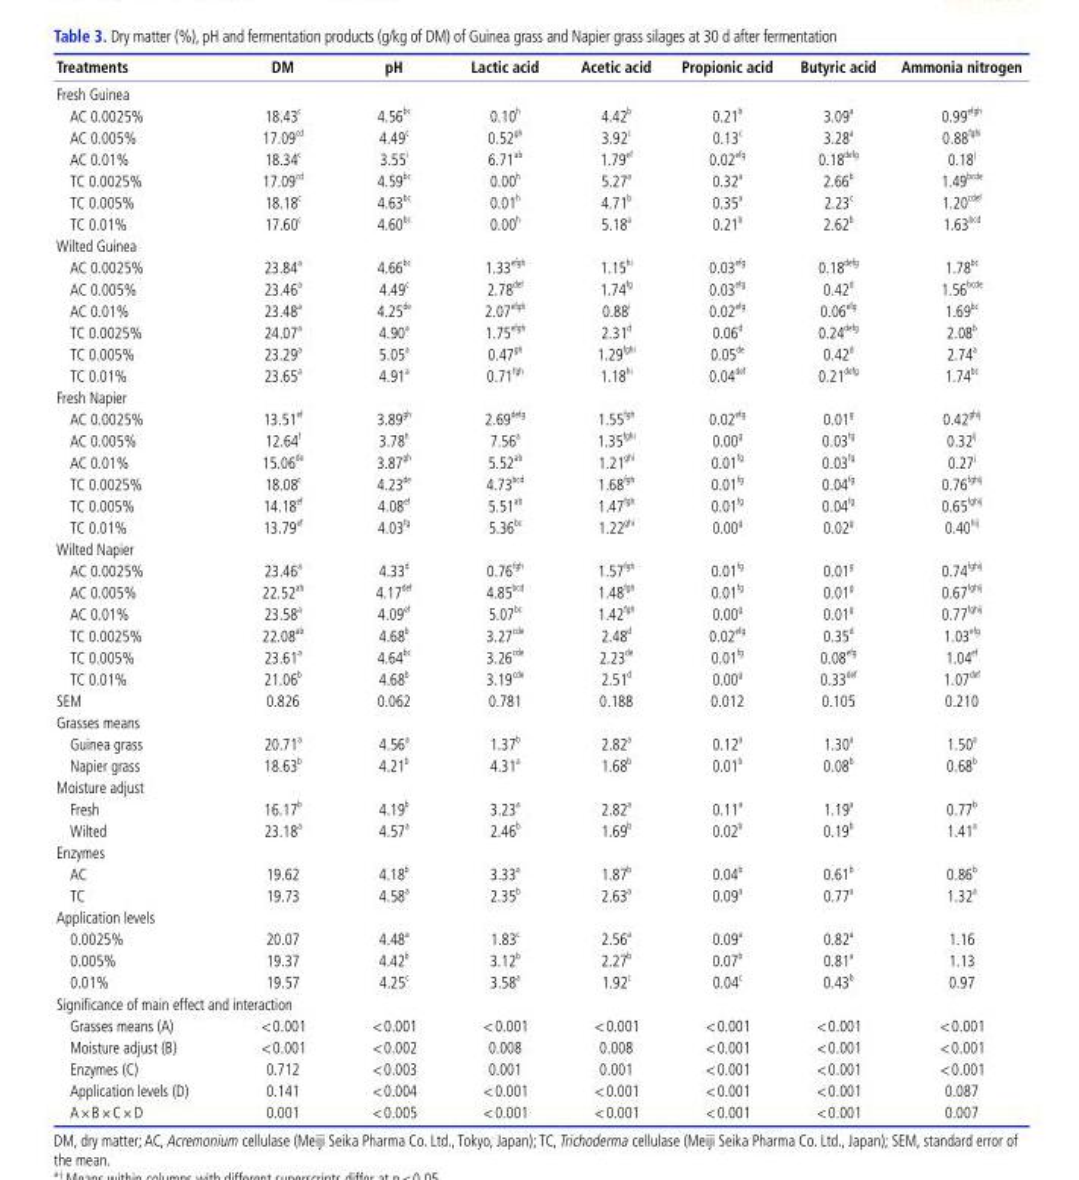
<table><thead><tr><td>Treatments</td><td>DM</td><td>pH</td><td>Lactic acid</td><td>Acetic acid</td><td>Propionic acid</td><td>Butyric acid</td><td>Ammonia nitrogen</td></tr></thead><tbody><tr><td colspan="8">Fresh Guinea</td></tr><tr><td>AC 0.0025%</td><td>18.43 <sup>c</sup></td><td>4.56 <sup>bc</sup></td><td>0.10 <sup>h</sup></td><td>4.42 <sup>b</sup></td><td>0.21 <sup>b</sup></td><td>3.09 <sup>a</sup></td><td>0.99 efgh</td></tr><tr><td>AC 0.005%</td><td>17.09 <sup>cd</sup></td><td>4.49 <sup>c</sup></td><td>0.52 <sup>gh</sup></td><td>3.92 <sup>c</sup></td><td>0.13 <sup>c</sup></td><td>3.28 <sup>a</sup></td><td>0.88 fghi</td></tr><tr><td>AC 0.01%</td><td>18.34 <sup>c</sup></td><td>3.55 <sup>i</sup></td><td>6.71 <sup>ab</sup></td><td>1.79 <sup>ef</sup></td><td>0.02 efg</td><td>0.18 defg</td><td>0.18 <sup>j</sup></td></tr><tr><td>TC 0.0025%</td><td>17.09 <sup>cd</sup></td><td>4.59 <sup>bc</sup></td><td>0.00 <sup>h</sup></td><td>5.27 <sup>a</sup></td><td>0.32 <sup>a</sup></td><td>2.66 <sup>b</sup></td><td>1.49 bcde</td></tr><tr><td>TC 0.005%</td><td>18.18 <sup>c</sup></td><td>4.63 <sup>bc</sup></td><td>0.01 <sup>h</sup></td><td>4.71 <sup>b</sup></td><td>0.35 <sup>a</sup></td><td>2.23 <sup>c</sup></td><td>1.20 cdef</td></tr><tr><td>TC 0.01%</td><td>17.60 <sup>c</sup></td><td>4.60 <sup>bc</sup></td><td>0.00 <sup>h</sup></td><td>5.18 <sup>a</sup></td><td>0.21 <sup>b</sup></td><td>2.62 <sup>b</sup></td><td>1.63 bcd</td></tr><tr><td colspan="8">Wilted Guinea</td></tr><tr><td>AC 0.0025%</td><td>23.84 <sup>a</sup></td><td>4.66 <sup>bc</sup></td><td>1.33 efgh</td><td>1.15 <sup>hi</sup></td><td>0.03 efg</td><td>0.18 defg</td><td>1.78 <sup>bc</sup></td></tr><tr><td>AC 0.005%</td><td>23.46 <sup>a</sup></td><td>4.49 <sup>c</sup></td><td>2.78 def</td><td>1.74 <sup>fg</sup></td><td>0.03 efg</td><td>0.42 <sup>d</sup></td><td>1.56 bcde</td></tr><tr><td>AC 0.01%</td><td>23.48 <sup>a</sup></td><td>4.25 <sup>de</sup></td><td>2.07 efgh</td><td>0.88 <sup>i</sup></td><td>0.02 efg</td><td>0.06 efg</td><td>1.69 <sup>bc</sup></td></tr><tr><td>TC 0.0025%</td><td>24.07 <sup>a</sup></td><td>4.90 <sup>a</sup></td><td>1.75 efgh</td><td>2.31 <sup>d</sup></td><td>0.06 <sup>d</sup></td><td>0.24 defg</td><td>2.08 <sup>b</sup></td></tr><tr><td>TC 0.005%</td><td>23.29 <sup>a</sup></td><td>5.05 <sup>a</sup></td><td>0.47 <sup>gh</sup></td><td>1.29 fghi</td><td>0.05 <sup>de</sup></td><td>0.42 <sup>d</sup></td><td>2.74 <sup>a</sup></td></tr><tr><td>TC 0.01%</td><td>23.65 <sup>a</sup></td><td>4.91 <sup>a</sup></td><td>0.71 fgh</td><td>1.18 <sup>hi</sup></td><td>0.04 def</td><td>0.21 defg</td><td>1.74 <sup>bc</sup></td></tr><tr><td colspan="8">Fresh Napier</td></tr><tr><td>AC 0.0025%</td><td>13.51 <sup>ef</sup></td><td>3.89 <sup>gh</sup></td><td>2.69 defg</td><td>1.55 fgh</td><td>0.02 efg</td><td>0.01 <sup>g</sup></td><td>0.42 ghij</td></tr><tr><td>AC 0.005%</td><td>12.64 <sup>f</sup></td><td>3.78 <sup>h</sup></td><td>7.56 <sup>a</sup></td><td>1.35 fghi</td><td>0.00 <sup>g</sup></td><td>0.03 <sup>fg</sup></td><td>0.32 <sup>ij</sup></td></tr><tr><td>AC 0.01%</td><td>15.06 <sup>de</sup></td><td>3.87 <sup>gh</sup></td><td>5.52 <sup>ab</sup></td><td>1.21 ghi</td><td>0.01 <sup>fg</sup></td><td>0.03 <sup>fg</sup></td><td>0.27 <sup>j</sup></td></tr><tr><td>TC 0.0025%</td><td>18.08 <sup>c</sup></td><td>4.23 <sup>de</sup></td><td>4.73 bcd</td><td>1.68 fgh</td><td>0.01 <sup>fg</sup></td><td>0.04 <sup>fg</sup></td><td>0.76 fghij</td></tr><tr><td>TC 0.005%</td><td>14.18 <sup>ef</sup></td><td>4.08 <sup>ef</sup></td><td>5.51 <sup>ab</sup></td><td>1.47 fgh</td><td>0.01 <sup>fg</sup></td><td>0.04 <sup>fg</sup></td><td>0.65 fghij</td></tr><tr><td>TC 0.01%</td><td>13.79 <sup>ef</sup></td><td>4.03 <sup>fg</sup></td><td>5.36 <sup>bc</sup></td><td>1.22 ghi</td><td>0.00 <sup>g</sup></td><td>0.02 <sup>g</sup></td><td>0.40 hij</td></tr><tr><td colspan="8">Wilted Napier</td></tr><tr><td>AC 0.0025%</td><td>23.46 <sup>a</sup></td><td>4.33 <sup>d</sup></td><td>0.76 fgh</td><td>1.57 fgh</td><td>0.01 <sup>fg</sup></td><td>0.01 <sup>g</sup></td><td>0.74 fghij</td></tr><tr><td>AC 0.005%</td><td>22.52 <sup>ab</sup></td><td>4.17 def</td><td>4.85 bcd</td><td>1.48 fgh</td><td>0.01 <sup>fg</sup></td><td>0.01 <sup>g</sup></td><td>0.67 fghij</td></tr><tr><td>AC 0.01%</td><td>23.58 <sup>a</sup></td><td>4.09 <sup>ef</sup></td><td>5.07 <sup>bc</sup></td><td>1.42 fgh</td><td>0.00 <sup>g</sup></td><td>0.01 <sup>g</sup></td><td>0.77 fghij</td></tr><tr><td>TC 0.0025%</td><td>22.08 <sup>ab</sup></td><td>4.68 <sup>b</sup></td><td>3.27 cde</td><td>2.48 <sup>d</sup></td><td>0.02 efg</td><td>0.35 <sup>d</sup></td><td>1.03 efg</td></tr><tr><td>TC 0.005%</td><td>23.61 <sup>a</sup></td><td>4.64 <sup>bc</sup></td><td>3.26 cde</td><td>2.23 <sup>de</sup></td><td>0.01 <sup>fg</sup></td><td>0.08 efg</td><td>1.04 <sup>ef</sup></td></tr><tr><td>TC 0.01%</td><td>21.06 <sup>b</sup></td><td>4.68 <sup>b</sup></td><td>3.19 cde</td><td>2.51 <sup>d</sup></td><td>0.00 <sup>g</sup></td><td>0.33 def</td><td>1.07 def</td></tr><tr><td>SEM</td><td>0.826</td><td>0.062</td><td>0.781</td><td>0.188</td><td>0.012</td><td>0.105</td><td>0.210</td></tr><tr><td colspan="8">Grasses means</td></tr><tr><td>Guinea grass</td><td>20.71 <sup>a</sup></td><td>4.56 <sup>a</sup></td><td>1.37 <sup>b</sup></td><td>2.82 <sup>a</sup></td><td>0.12 <sup>a</sup></td><td>1.30 <sup>a</sup></td><td>1.50 <sup>a</sup></td></tr><tr><td>Napier grass</td><td>18.63 <sup>b</sup></td><td>4.21 <sup>b</sup></td><td>4.31 <sup>a</sup></td><td>1.68 <sup>b</sup></td><td>0.01 <sup>b</sup></td><td>0.08 <sup>b</sup></td><td>0.68 <sup>b</sup></td></tr><tr><td colspan="8">Moisture adjust</td></tr><tr><td>Fresh</td><td>16.17 <sup>b</sup></td><td>4.19 <sup>b</sup></td><td>3.23 <sup>a</sup></td><td>2.82 <sup>a</sup></td><td>0.11 <sup>a</sup></td><td>1.19 <sup>a</sup></td><td>0.77 <sup>b</sup></td></tr><tr><td>Wilted</td><td>23.18 <sup>a</sup></td><td>4.57 <sup>a</sup></td><td>2.46 <sup>b</sup></td><td>1.69 <sup>b</sup></td><td>0.02 <sup>b</sup></td><td>0.19 <sup>b</sup></td><td>1.41 <sup>a</sup></td></tr><tr><td colspan="8">Enzymes</td></tr><tr><td>AC</td><td>19.62</td><td>4.18 <sup>b</sup></td><td>3.33 <sup>a</sup></td><td>1.87 <sup>b</sup></td><td>0.04 <sup>b</sup></td><td>0.61 <sup>b</sup></td><td>0.86 <sup>b</sup></td></tr><tr><td>TC</td><td>19.73</td><td>4.58 <sup>a</sup></td><td>2.35 <sup>b</sup></td><td>2.63 <sup>a</sup></td><td>0.09 <sup>a</sup></td><td>0.77 <sup>a</sup></td><td>1.32 <sup>a</sup></td></tr><tr><td colspan="8">Application levels</td></tr><tr><td>0.0025%</td><td>20.07</td><td>4.48 <sup>a</sup></td><td>1.83 <sup>c</sup></td><td>2.56 <sup>a</sup></td><td>0.09 <sup>a</sup></td><td>0.82 <sup>a</sup></td><td>1.16</td></tr><tr><td>0.005%</td><td>19.37</td><td>4.42 <sup>b</sup></td><td>3.12 <sup>b</sup></td><td>2.27 <sup>b</sup></td><td>0.07 <sup>b</sup></td><td>0.81 <sup>a</sup></td><td>1.13</td></tr><tr><td>0.01%</td><td>19.57</td><td>4.25 <sup>c</sup></td><td>3.58 <sup>a</sup></td><td>1.92 <sup>c</sup></td><td>0.04 <sup>c</sup></td><td>0.43 <sup>b</sup></td><td>0.97</td></tr><tr><td colspan="8">Significance of main effect and interaction</td></tr><tr><td>Grasses means (A)</td><td>&lt;0.001</td><td>&lt;0.001</td><td>&lt;0.001</td><td>&lt;0.001</td><td>&lt;0.001</td><td>&lt;0.001</td><td>&lt;0.001</td></tr><tr><td>Moisture adjust (B)</td><td>&lt;0.001</td><td>&lt;0.002</td><td>0.008</td><td>0.008</td><td>&lt;0.001</td><td>&lt;0.001</td><td>&lt;0.001</td></tr><tr><td>Enzymes (C)</td><td>0.712</td><td>&lt;0.003</td><td>0.001</td><td>0.001</td><td>&lt;0.001</td><td>&lt;0.001</td><td>&lt;0.001</td></tr><tr><td>Application levels (D)</td><td>0.141</td><td>&lt;0.004</td><td>&lt;0.001</td><td>&lt;0.001</td><td>&lt;0.001</td><td>&lt;0.001</td><td>0.087</td></tr><tr><td>A×B×C×D</td><td>0.001</td><td>&lt;0.005</td><td>&lt;0.001</td><td>&lt;0.001</td><td>&lt;0.001</td><td>&lt;0.001</td><td>0.007</td></tr></tbody></table>